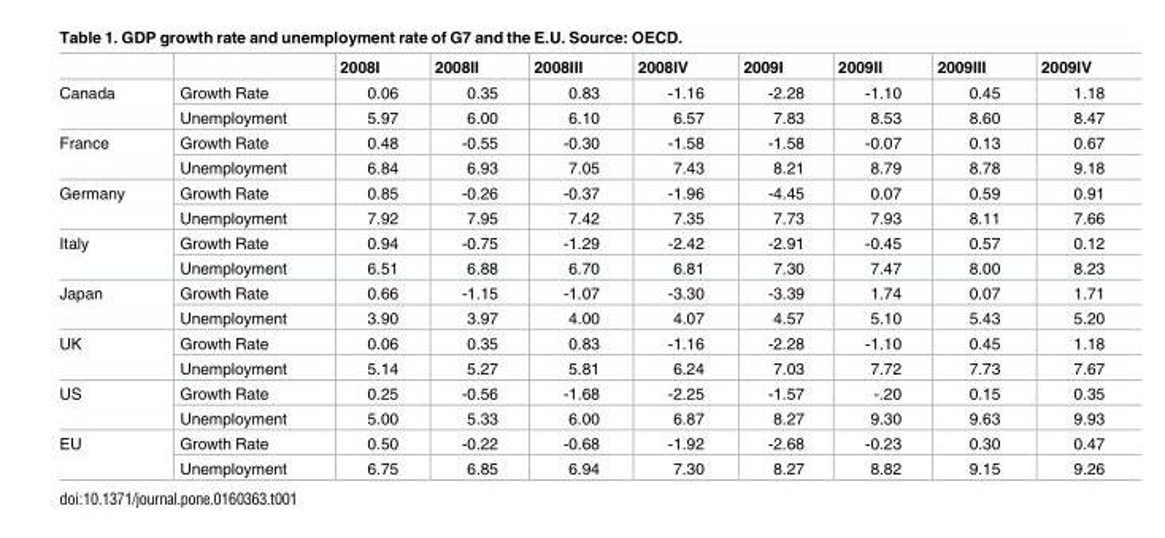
<table><thead><tr><td></td><td></td><td>2008I</td><td>2008II</td><td>2008III</td><td>2008IV</td><td>2009I</td><td>2009II</td><td>2009III</td><td>2009IV</td></tr></thead><tbody><tr><td rowspan="2">Canada</td><td>Growth Rate</td><td>0.06</td><td>0.35</td><td>0.83</td><td>-1.16</td><td>-2.28</td><td>-1.10</td><td>0.45</td><td>1.18</td></tr><tr><td>Unemployment</td><td>5.97</td><td>6.00</td><td>6.10</td><td>6.57</td><td>7.83</td><td>8.53</td><td>8.60</td><td>8.47</td></tr><tr><td rowspan="2">France</td><td>Growth Rate</td><td>0.48</td><td>-0.55</td><td>-0.30</td><td>-1.58</td><td>-1.58</td><td>-0.07</td><td>0.13</td><td>0.67</td></tr><tr><td>Unemployment</td><td>6.84</td><td>6.93</td><td>7.05</td><td>7.43</td><td>8.21</td><td>8.79</td><td>8.78</td><td>9.18</td></tr><tr><td rowspan="2">Germany</td><td>Growth Rate</td><td>0.85</td><td>-0.26</td><td>-0.37</td><td>-1.96</td><td>-4.45</td><td>0.07</td><td>0.59</td><td>0.91</td></tr><tr><td>Unemployment</td><td>7.92</td><td>7.95</td><td>7.42</td><td>7.35</td><td>7.73</td><td>7.93</td><td>8.11</td><td>7.66</td></tr><tr><td rowspan="2">Italy</td><td>Growth Rate</td><td>0.94</td><td>-0.75</td><td>-1.29</td><td>-2.42</td><td>-2.91</td><td>-0.45</td><td>0.57</td><td>0.12</td></tr><tr><td>Unemployment</td><td>6.51</td><td>6.88</td><td>6.70</td><td>6.81</td><td>7.30</td><td>7.47</td><td>8.00</td><td>8.23</td></tr><tr><td rowspan="2">Japan</td><td>Growth Rate</td><td>0.66</td><td>-1.15</td><td>-1.07</td><td>-3.30</td><td>-3.39</td><td>1.74</td><td>0.07</td><td>1.71</td></tr><tr><td>Unemployment</td><td>3.90</td><td>3.97</td><td>4.00</td><td>4.07</td><td>4.57</td><td>5.10</td><td>5.43</td><td>5.20</td></tr><tr><td rowspan="2">UK</td><td>Growth Rate</td><td>0.06</td><td>0.35</td><td>0.83</td><td>-1.16</td><td>-2.28</td><td>-1.10</td><td>0.45</td><td>1.18</td></tr><tr><td>Unemployment</td><td>5.14</td><td>5.27</td><td>5.81</td><td>6.24</td><td>7.03</td><td>7.72</td><td>7.73</td><td>7.67</td></tr><tr><td rowspan="2">US</td><td>Growth Rate</td><td>0.25</td><td>-0.56</td><td>-1.68</td><td>-2.25</td><td>-1.57</td><td>-.20</td><td>0.15</td><td>0.35</td></tr><tr><td>Unemployment</td><td>5.00</td><td>5.33</td><td>6.00</td><td>6.87</td><td>8.27</td><td>9.30</td><td>9.63</td><td>9.93</td></tr><tr><td rowspan="2">EU</td><td>Growth Rate</td><td>0.50</td><td>-0.22</td><td>-0.68</td><td>-1.92</td><td>-2.68</td><td>-0.23</td><td>0.30</td><td>0.47</td></tr><tr><td>Unemployment</td><td>6.75</td><td>6.85</td><td>6.94</td><td>7.30</td><td>8.27</td><td>8.82</td><td>9.15</td><td>9.26</td></tr></tbody></table>